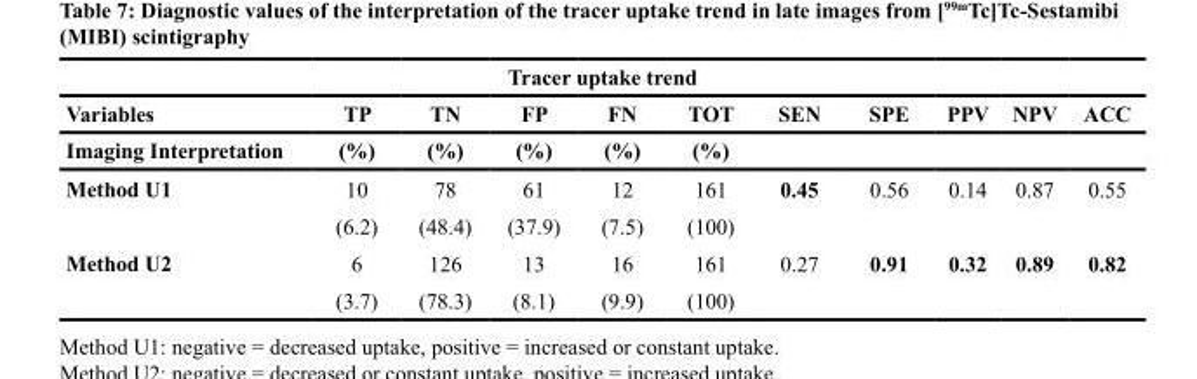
<table><thead><tr><td colspan="11">Tracer uptake trend</td></tr><tr><td rowspan="2">Variables Imaging Interpretation</td><td rowspan="2">TP (%)</td><td rowspan="2">TN (%)</td><td rowspan="2">FP (%)</td><td rowspan="2">FN (%)</td><td rowspan="2">TOT (%)</td><td rowspan="2">SEN</td><td rowspan="2">SPE</td><td rowspan="2">PPV</td><td rowspan="2">NPV</td><td rowspan="2">ACC</td></tr><tr></tr></thead><tbody><tr><td rowspan="2">Method U1</td><td>10</td><td>78</td><td>61</td><td>12</td><td>161</td><td>0.45</td><td>0.56</td><td>0.14</td><td>0.87</td><td>0.55</td></tr><tr><td>(6.2)</td><td>(48.4)</td><td>(37.9)</td><td>(7.5)</td><td>(100)</td><td></td><td></td><td></td><td></td><td></td></tr><tr><td rowspan="2">Method U2</td><td>6</td><td>126</td><td>13</td><td>16</td><td>161</td><td>0.27</td><td>0.91</td><td>0.32</td><td>0.89</td><td>0.82</td></tr><tr><td>(3.7)</td><td>(78.3)</td><td>(8.1)</td><td>(9.9)</td><td>(100)</td><td></td><td></td><td></td><td></td><td></td></tr></tbody></table>